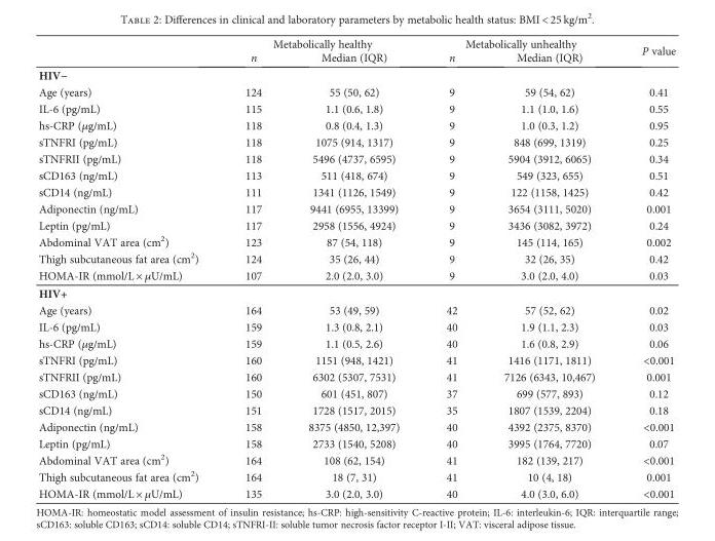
<table><thead><tr><td rowspan="2"></td><td colspan="2">Metabolically healthy</td><td colspan="2">Metabolically unhealthy</td><td rowspan="2">P value</td></tr><tr><td>n</td><td>Median (IQR)</td><td>n</td><td>Median (IQR)</td></tr></thead><tbody><tr><td colspan="6">HIV−</td></tr><tr><td>Age (years)</td><td>124</td><td>55 (50, 62)</td><td>9</td><td>59 (54, 62)</td><td>0.41</td></tr><tr><td>IL-6 (pg/mL)</td><td>115</td><td>1.1 (0.6, 1.8)</td><td>9</td><td>1.1 (1.0, 1.6)</td><td>0.55</td></tr><tr><td>hs-CRP (μg/mL)</td><td>118</td><td>0.8 (0.4, 1.3)</td><td>9</td><td>1.0 (0.3, 1.2)</td><td>0.95</td></tr><tr><td>sTNFRI (pg/mL)</td><td>118</td><td>1075 (914, 1317)</td><td>9</td><td>848 (699, 1319)</td><td>0.25</td></tr><tr><td>sTNFRII (pg/mL)</td><td>118</td><td>5496 (4737, 6595)</td><td>9</td><td>5904 (3912, 6065)</td><td>0.34</td></tr><tr><td>sCD163 (ng/mL)</td><td>113</td><td>511 (418, 674)</td><td>9</td><td>549 (323, 655)</td><td>0.51</td></tr><tr><td>sCD14 (ng/mL)</td><td>111</td><td>1341 (1126, 1549)</td><td>9</td><td>122 (1158, 1425)</td><td>0.42</td></tr><tr><td>Adiponectin (ng/mL)</td><td>117</td><td>9441 (6955, 13399)</td><td>9</td><td>3654 (3111, 5020)</td><td>0.001</td></tr><tr><td>Leptin (pg/mL)</td><td>117</td><td>2958 (1556, 4924)</td><td>9</td><td>3436 (3082, 3972)</td><td>0.24</td></tr><tr><td>Abdominal VAT area (cm<sup>2</sup>)</td><td>123</td><td>87 (54, 118)</td><td>9</td><td>145 (114, 165)</td><td>0.002</td></tr><tr><td>Thigh subcutaneous fat area (cm<sup>2</sup>)</td><td>124</td><td>35 (26, 44)</td><td>9</td><td>32 (26, 35)</td><td>0.42</td></tr><tr><td>HOMA-IR (mmol/L × μU/mL)</td><td>107</td><td>2.0 (2.0, 3.0)</td><td>9</td><td>3.0 (2.0, 4.0)</td><td>0.03</td></tr><tr><td colspan="6">HIV+</td></tr><tr><td>Age (years)</td><td>164</td><td>53 (49, 59)</td><td>42</td><td>57 (52, 62)</td><td>0.02</td></tr><tr><td>IL-6 (pg/mL)</td><td>159</td><td>1.3 (0.8, 2.1)</td><td>40</td><td>1.9 (1.1, 2.3)</td><td>0.03</td></tr><tr><td>hs-CRP (μg/mL)</td><td>159</td><td>1.1 (0.5, 2.6)</td><td>40</td><td>1.6 (0.8, 2.9)</td><td>0.06</td></tr><tr><td>sTNFRI (pg/mL)</td><td>160</td><td>1151 (948, 1421)</td><td>41</td><td>1416 (1171, 1811)</td><td>&lt;0.001</td></tr><tr><td>sTNFRII (pg/mL)</td><td>160</td><td>6302 (5307, 7531)</td><td>41</td><td>7126 (6343, 10,467)</td><td>0.001</td></tr><tr><td>sCD163 (ng/mL)</td><td>150</td><td>601 (451, 807)</td><td>37</td><td>699 (577, 893)</td><td>0.12</td></tr><tr><td>sCD14 (ng/mL)</td><td>151</td><td>1728 (1517, 2015)</td><td>35</td><td>1807 (1539, 2204)</td><td>0.18</td></tr><tr><td>Adiponectin (ng/mL)</td><td>158</td><td>8375 (4850, 12,397)</td><td>40</td><td>4392 (2375, 8370)</td><td>&lt;0.001</td></tr><tr><td>Leptin (pg/mL)</td><td>158</td><td>2733 (1540, 5208)</td><td>40</td><td>3995 (1764, 7720)</td><td>0.07</td></tr><tr><td>Abdominal VAT area (cm<sup>2</sup>)</td><td>164</td><td>108 (62, 154)</td><td>41</td><td>182 (139, 217)</td><td>&lt;0.001</td></tr><tr><td>Thigh subcutaneous fat area (cm<sup>2</sup>)</td><td>164</td><td>18 (7, 31)</td><td>41</td><td>10 (4, 18)</td><td>0.001</td></tr><tr><td>HOMA-IR (mmol/L × μU/mL)</td><td>135</td><td>3.0 (2.0, 3.0)</td><td>40</td><td>4.0 (3.0, 6.0)</td><td>&lt;0.001</td></tr></tbody></table>